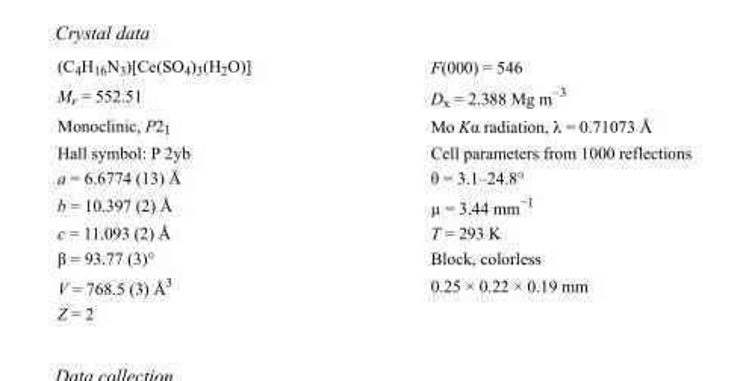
<table><tbody><tr><td>(C<sub>4</sub>H<sub>16</sub>N<sub>3</sub>)[Ce(SO<sub>4</sub>)<sub>3</sub>(H<sub>2</sub>O)]</td><td>F(000) = 546</td></tr><tr><td>M<sub>r</sub> = 552.51</td><td>D<sub>x</sub> = 2.388 Mg m<sup>−3</sup></td></tr><tr><td>Monoclinic, P2<sub>1</sub></td><td>Mo Kα radiation, λ = 0.71073 Å</td></tr><tr><td>Hall symbol: P 2yb</td><td>Cell parameters from 1000 reflections</td></tr><tr><td>a = 6.6774 (13) Å</td><td>θ = 3.1–24.8°</td></tr><tr><td>b = 10.397 (2) Å</td><td>µ = 3.44 mm<sup>−1</sup></td></tr><tr><td>c = 11.093 (2) Å</td><td>T = 293 K</td></tr><tr><td>β = 93.77 (3)°</td><td>Block, colorless</td></tr><tr><td>V = 768.5 (3) Å<sup>3</sup></td><td>0.25 × 0.22 × 0.19 mm</td></tr><tr><td>Z = 2</td><td></td></tr></tbody></table>